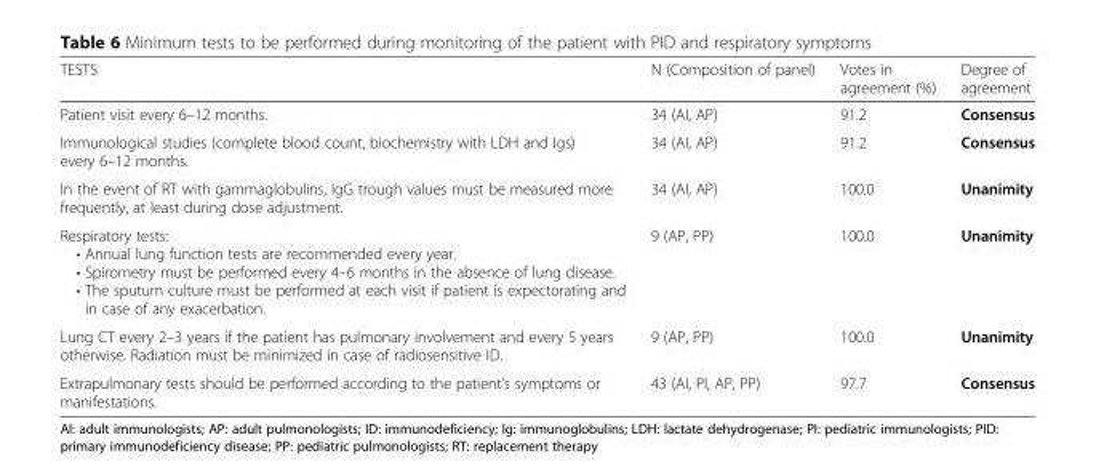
<table><thead><tr><td>TESTS</td><td>N (Composition of panel)</td><td>Votes in agreement (%)</td><td>Degree of agreement</td></tr></thead><tbody><tr><td>Patient visit every 6–12 months.</td><td>34 (AI, AP)</td><td>91.2</td><td>Consensus</td></tr><tr><td>Immunological studies (complete blood count, biochemistry with LDH and Igs) every 6–12 months.</td><td>34 (AI, AP)</td><td>91.2</td><td>Consensus</td></tr><tr><td>In the event of RT with gammaglobulins, IgG trough values must be measured more frequently, at least during dose adjustment.</td><td>34 (AI, AP)</td><td>100.0</td><td>Unanimity</td></tr><tr><td>Respiratory tests: • Annual lung function tests are recommended every year. • Spirometry must be performed every 4–6 months in the absence of lung disease. • The sputum culture must be performed at each visit if patient is expectorating and in case of any exacerbation.</td><td>9 (AP, PP)</td><td>100.0</td><td>Unanimity</td></tr><tr><td>Lung CT every 2–3 years if the patient has pulmonary involvement and every 5 years otherwise. Radiation must be minimized in case of radiosensitive ID.</td><td>9 (AP, PP)</td><td>100.0</td><td>Unanimity</td></tr><tr><td>Extrapulmonary tests should be performed according to the patient’s symptoms or manifestations.</td><td>43 (AI, PI, AP, PP)</td><td>97.7</td><td>Consensus</td></tr></tbody></table>